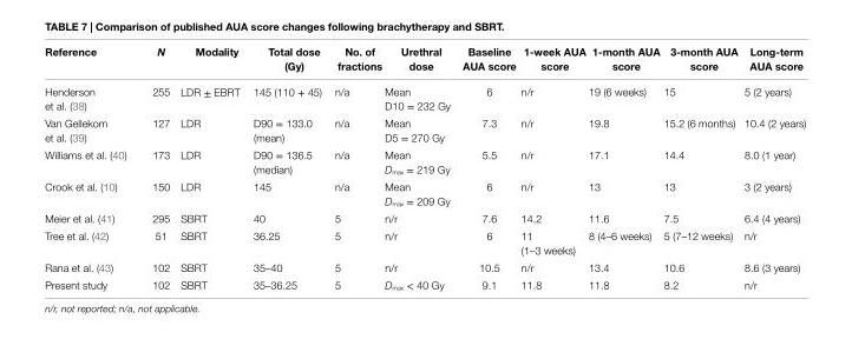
<table><thead><tr><td>reference</td><td>N</td><td>Modality</td><td>Total dose (gy)</td><td>no. of fractions</td><td>Urethral dose</td><td>Baseline aUa score</td><td>1-week aUa score</td><td>1-month aUa score</td><td>3-month aUa score</td><td>long-term aUa score</td></tr></thead><tbody><tr><td>Henderson et al. (38)</td><td>255</td><td>LDR ± EBRT</td><td>145 (110 + 45)</td><td>n/a</td><td>Mean D10 = 232 Gy</td><td>6</td><td>n/r</td><td>19 (6 weeks)</td><td>15</td><td>5 (2 years)</td></tr><tr><td>Van Gellekom et al. (39)</td><td>127</td><td>LDR</td><td>D90 = 133.0 (mean)</td><td>n/a</td><td>Mean D5 = 270 Gy</td><td>7.3</td><td>n/r</td><td>19.8</td><td>15.2 (6 months)</td><td>10.4 (2 years)</td></tr><tr><td>Williams et al. (40)</td><td>173</td><td>LDR</td><td>D90 = 136.5 (median)</td><td>n/a</td><td>Mean D<sub>max</sub> = 219 Gy</td><td>5.5</td><td>n/r</td><td>17.1</td><td>14.4</td><td>8.0 (1 year)</td></tr><tr><td>Crook et al. (10)</td><td>150</td><td>LDR</td><td>145</td><td>n/a</td><td>Mean D<sub>max</sub> = 209 Gy</td><td>6</td><td>n/r</td><td>13</td><td>13</td><td>3 (2 years)</td></tr><tr><td>Meier et al. (41)</td><td>295</td><td>SBRT</td><td>40</td><td>5</td><td>n/r</td><td>7.6</td><td>14.2</td><td>11.6</td><td>7.5</td><td>6.4 (4 years)</td></tr><tr><td>Tree et al. (42)</td><td>51</td><td>SBRT</td><td>36.25</td><td>5</td><td>n/r</td><td>6</td><td>11 (1–3 weeks)</td><td>8 (4–6 weeks)</td><td>5 (7–12 weeks)</td><td>n/r</td></tr><tr><td>Rana et al. (43)</td><td>102</td><td>SBRT</td><td>35–40</td><td>5</td><td>n/r</td><td>10.5</td><td>n/r</td><td>13.4</td><td>10.6</td><td>8.6 (3 years)</td></tr><tr><td>Present study</td><td>102</td><td>SBRT</td><td>35–36.25</td><td>5</td><td>D<sub>max</sub> &lt; 40 Gy</td><td>9.1</td><td>11.8</td><td>11.8</td><td>8.2</td><td>n/r</td></tr></tbody></table>